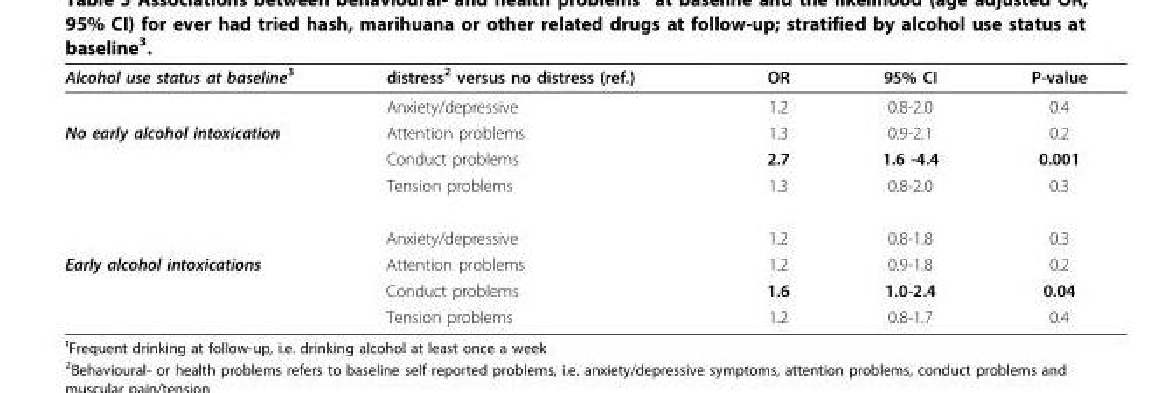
<table><thead><tr><td>Alcohol use status at baseline<sup>3</sup></td><td>distress<sup>2</sup> versus no distress (ref.)</td><td>OR</td><td>95% CI</td><td>P-value</td></tr></thead><tbody><tr><td></td><td>Anxiety/depressive</td><td>1.2</td><td>0.8-2.0</td><td>0.4</td></tr><tr><td rowspan="4">No early alcohol intoxication</td><td>Attention problems</td><td>1.3</td><td>0.9-2.1</td><td>0.2</td></tr><tr><td>Conduct problems</td><td>2.7</td><td>1.6 -4.4</td><td>0.001</td></tr><tr><td>Tension problems</td><td>1.3</td><td>0.8-2.0</td><td>0.3</td></tr><tr><td>Anxiety/depressive</td><td>1.2</td><td>0.8-1.8</td><td>0.3</td></tr><tr><td rowspan="3">Early alcohol intoxications</td><td>Attention problems</td><td>1.2</td><td>0.9-1.8</td><td>0.2</td></tr><tr><td>Conduct problems</td><td>1.6</td><td>1.0-2.4</td><td>0.04</td></tr><tr><td>Tension problems</td><td>1.2</td><td>0.8-1.7</td><td>0.4</td></tr></tbody></table>